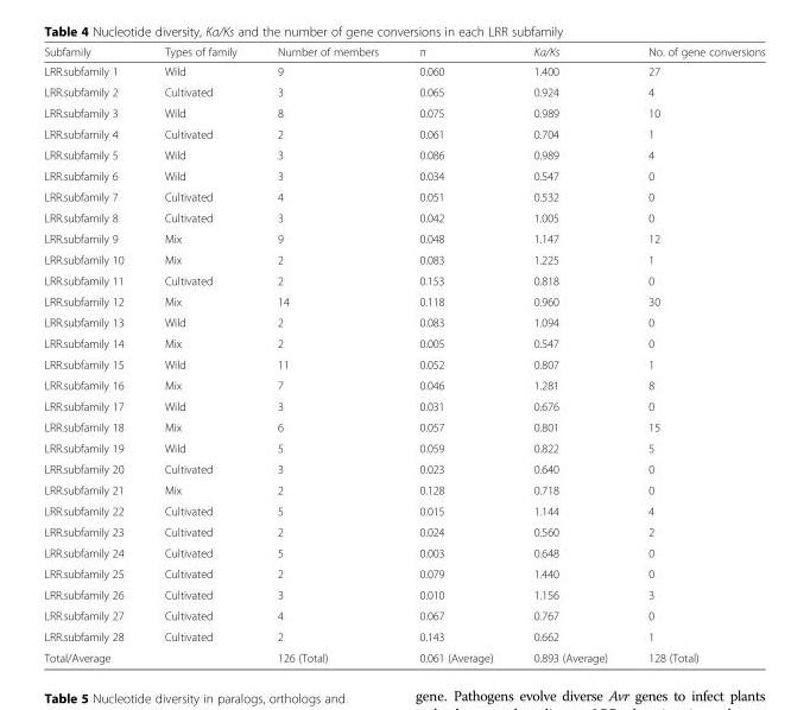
<table><thead><tr><td>Subfamily</td><td>Types of family</td><td>Number of members</td><td>π</td><td>Ka/Ks</td><td>No. of gene conversions</td></tr></thead><tbody><tr><td>LRR.subfamily 1</td><td>Wild</td><td>9</td><td>0.060</td><td>1.400</td><td>27</td></tr><tr><td>LRR.subfamily 2</td><td>Cultivated</td><td>3</td><td>0.065</td><td>0.924</td><td>4</td></tr><tr><td>LRR.subfamily 3</td><td>Wild</td><td>8</td><td>0.075</td><td>0.989</td><td>10</td></tr><tr><td>LRR.subfamily 4</td><td>Cultivated</td><td>2</td><td>0.061</td><td>0.704</td><td>1</td></tr><tr><td>LRR.subfamily 5</td><td>Wild</td><td>3</td><td>0.086</td><td>0.989</td><td>4</td></tr><tr><td>LRR.subfamily 6</td><td>Wild</td><td>3</td><td>0.034</td><td>0.547</td><td>0</td></tr><tr><td>LRR.subfamily 7</td><td>Cultivated</td><td>4</td><td>0.051</td><td>0.532</td><td>0</td></tr><tr><td>LRR.subfamily 8</td><td>Cultivated</td><td>3</td><td>0.042</td><td>1.005</td><td>0</td></tr><tr><td>LRR.subfamily 9</td><td>Mix</td><td>9</td><td>0.048</td><td>1.147</td><td>12</td></tr><tr><td>LRR.subfamily 10</td><td>Mix</td><td>2</td><td>0.083</td><td>1.225</td><td>1</td></tr><tr><td>LRR.subfamily 11</td><td>Cultivated</td><td>2</td><td>0.153</td><td>0.818</td><td>0</td></tr><tr><td>LRR.subfamily 12</td><td>Mix</td><td>14</td><td>0.118</td><td>0.960</td><td>30</td></tr><tr><td>LRR.subfamily 13</td><td>Wild</td><td>2</td><td>0.083</td><td>1.094</td><td>0</td></tr><tr><td>LRR.subfamily 14</td><td>Mix</td><td>2</td><td>0.005</td><td>0.547</td><td>0</td></tr><tr><td>LRR.subfamily 15</td><td>Wild</td><td>11</td><td>0.052</td><td>0.807</td><td>1</td></tr><tr><td>LRR.subfamily 16</td><td>Mix</td><td>7</td><td>0.046</td><td>1.281</td><td>8</td></tr><tr><td>LRR.subfamily 17</td><td>Wild</td><td>3</td><td>0.031</td><td>0.676</td><td>0</td></tr><tr><td>LRR.subfamily 18</td><td>Mix</td><td>6</td><td>0.057</td><td>0.801</td><td>15</td></tr><tr><td>LRR.subfamily 19</td><td>Wild</td><td>5</td><td>0.059</td><td>0.822</td><td>5</td></tr><tr><td>LRR.subfamily 20</td><td>Cultivated</td><td>3</td><td>0.023</td><td>0.640</td><td>0</td></tr><tr><td>LRR.subfamily 21</td><td>Mix</td><td>2</td><td>0.128</td><td>0.718</td><td>0</td></tr><tr><td>LRR.subfamily 22</td><td>Cultivated</td><td>5</td><td>0.015</td><td>1.144</td><td>4</td></tr><tr><td>LRR.subfamily 23</td><td>Cultivated</td><td>2</td><td>0.024</td><td>0.560</td><td>2</td></tr><tr><td>LRR.subfamily 24</td><td>Cultivated</td><td>5</td><td>0.003</td><td>0.648</td><td>0</td></tr><tr><td>LRR.subfamily 25</td><td>Cultivated</td><td>2</td><td>0.079</td><td>1.440</td><td>0</td></tr><tr><td>LRR.subfamily 26</td><td>Cultivated</td><td>3</td><td>0.010</td><td>1.156</td><td>3</td></tr><tr><td>LRR.subfamily 27</td><td>Cultivated</td><td>4</td><td>0.067</td><td>0.767</td><td>0</td></tr><tr><td>LRR.subfamily 28</td><td>Cultivated</td><td>2</td><td>0.143</td><td>0.662</td><td>1</td></tr><tr><td>Total/Average</td><td></td><td>126 (Total)</td><td>0.061 (Average)</td><td>0.893 (Average)</td><td>128 (Total)</td></tr></tbody></table>